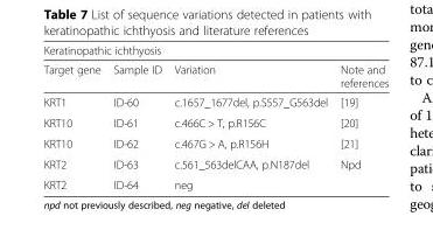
<table><thead><tr><td colspan="4">Keratinopathic ichthyosis</td></tr><tr><td>Target gene</td><td>Sample ID</td><td>Variation</td><td>Note and references</td></tr></thead><tbody><tr><td>KRT1</td><td>ID-60</td><td>c.1657_1677del, p.S557_G563del</td><td>[19]</td></tr><tr><td>KRT10</td><td>ID-61</td><td>c.466C &gt; T, p.R156C</td><td>[20]</td></tr><tr><td>KRT10</td><td>ID-62</td><td>c.467G &gt; A, p.R156H</td><td>[21]</td></tr><tr><td>KRT2</td><td>ID-63</td><td>c.561_563delCAA, p.N187del</td><td>Npd</td></tr><tr><td>KRT2</td><td>ID-64</td><td>neg</td><td></td></tr></tbody></table>